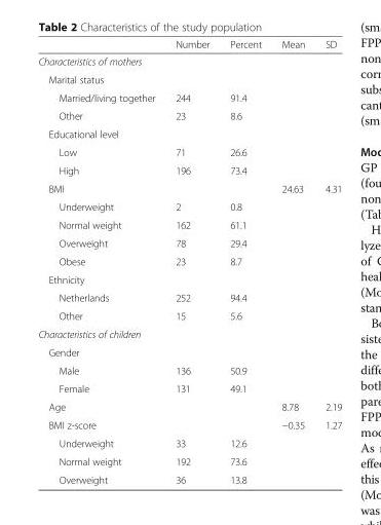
<table><thead><tr><td></td><td>Number</td><td>Percent</td><td>Mean</td><td>SD</td></tr></thead><tbody><tr><td colspan="5">Characteristics of mothers</td></tr><tr><td colspan="5">Marital status</td></tr><tr><td>Married/living together</td><td>244</td><td>91.4</td><td></td><td></td></tr><tr><td>Other</td><td>23</td><td>8.6</td><td></td><td></td></tr><tr><td colspan="5">Educational level</td></tr><tr><td>Low</td><td>71</td><td>26.6</td><td></td><td></td></tr><tr><td>High</td><td>196</td><td>73.4</td><td></td><td></td></tr><tr><td>BMI</td><td></td><td></td><td>24.63</td><td>4.31</td></tr><tr><td>Underweight</td><td>2</td><td>0.8</td><td></td><td></td></tr><tr><td>Normal weight</td><td>162</td><td>61.1</td><td></td><td></td></tr><tr><td>Overweight</td><td>78</td><td>29.4</td><td></td><td></td></tr><tr><td>Obese</td><td>23</td><td>8.7</td><td></td><td></td></tr><tr><td colspan="5">Ethnicity</td></tr><tr><td>Netherlands</td><td>252</td><td>94.4</td><td></td><td></td></tr><tr><td>Other</td><td>15</td><td>5.6</td><td></td><td></td></tr><tr><td colspan="5">Characteristics of children</td></tr><tr><td colspan="5">Gender</td></tr><tr><td>Male</td><td>136</td><td>50.9</td><td></td><td></td></tr><tr><td>Female</td><td>131</td><td>49.1</td><td></td><td></td></tr><tr><td>Age</td><td></td><td></td><td>8.78</td><td>2.19</td></tr><tr><td>BMI z-score</td><td></td><td></td><td>−0.35</td><td>1.27</td></tr><tr><td>Underweight</td><td>33</td><td>12.6</td><td></td><td></td></tr><tr><td>Normal weight</td><td>192</td><td>73.6</td><td></td><td></td></tr><tr><td>Overweight</td><td>36</td><td>13.8</td><td></td><td></td></tr></tbody></table>